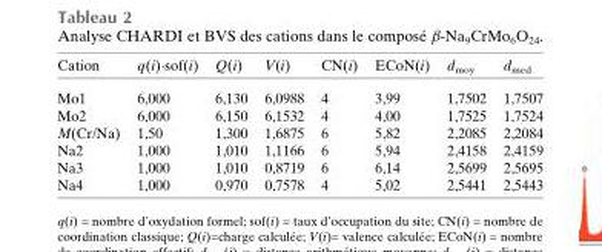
<table><thead><tr><td>Cation</td><td>q(i)·sof(i)</td><td>Q(i)</td><td>V(i)</td><td>CN(i)</td><td>ECoN(i)</td><td>d<sub>moy</sub></td><td>d<sub>med</sub></td></tr></thead><tbody><tr><td>Mo1</td><td>6,000</td><td>6,130</td><td>6,0988</td><td>4</td><td>3,99</td><td>1,7502</td><td>1,7507</td></tr><tr><td>Mo2</td><td>6,000</td><td>6,150</td><td>6,1532</td><td>4</td><td>4,00</td><td>1,7525</td><td>1,7524</td></tr><tr><td>M(Cr/Na)</td><td>1,50</td><td>1,300</td><td>1,6875</td><td>6</td><td>5,82</td><td>2,2085</td><td>2,2084</td></tr><tr><td>Na2</td><td>1,000</td><td>1,010</td><td>1,1166</td><td>6</td><td>5,94</td><td>2,4158</td><td>2,4159</td></tr><tr><td>Na3</td><td>1,000</td><td>1,010</td><td>0,8719</td><td>6</td><td>6,14</td><td>2,5699</td><td>2,5695</td></tr><tr><td>Na4</td><td>1,000</td><td>0,970</td><td>0,7578</td><td>4</td><td>5,02</td><td>2,5441</td><td>2,5443</td></tr></tbody></table>